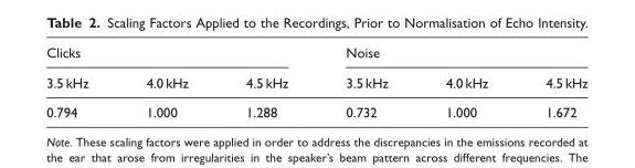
<table><thead><tr><td colspan="3">Clicks</td><td colspan="3">Noise</td></tr><tr><td>3.5 kHz</td><td>4.0 kHz</td><td>4.5 kHz</td><td>3.5 kHz</td><td>4.0 kHz</td><td>4.5 kHz</td></tr></thead><tbody><tr><td>0.794</td><td>1.000</td><td>1.288</td><td>0.732</td><td>1.000</td><td>1.672</td></tr></tbody></table>